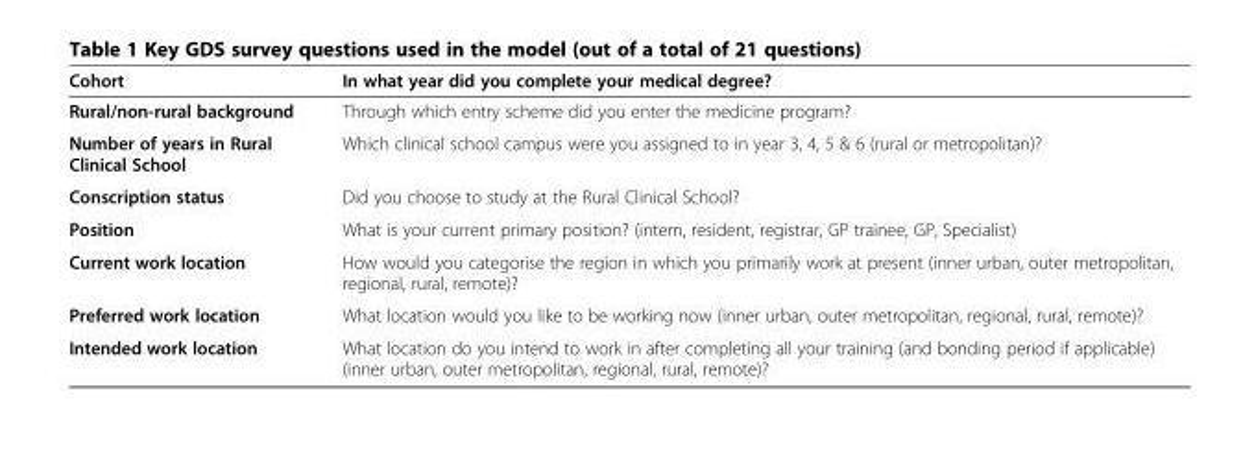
<table><thead><tr><td>Cohort</td><td>In what year did you complete your medical degree?</td></tr></thead><tbody><tr><td>Rural/non-rural background</td><td>Through which entry scheme did you enter the medicine program?</td></tr><tr><td>Number of years in Rural Clinical School</td><td>Which clinical school campus were you assigned to in year 3, 4, 5 &amp; 6 (rural or metropolitan)?</td></tr><tr><td>Conscription status</td><td>Did you choose to study at the Rural Clinical School?</td></tr><tr><td>Position</td><td>What is your current primary position? (intern, resident, registrar, GP trainee, GP, Specialist)</td></tr><tr><td>Current work location</td><td>How would you categorise the region in which you primarily work at present (inner urban, outer metropolitan, regional, rural, remote)?</td></tr><tr><td>Preferred work location</td><td>What location would you like to be working now (inner urban, outer metropolitan, regional, rural, remote)?</td></tr><tr><td>Intended work location</td><td>What location do you intend to work in after completing all your training (and bonding period if applicable) (inner urban, outer metropolitan, regional, rural, remote)?</td></tr></tbody></table>